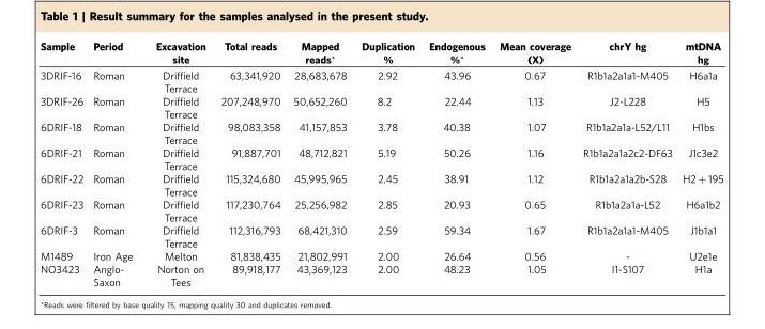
<table><thead><tr><td>Sample</td><td>Period</td><td>Excavation site</td><td>Total reads</td><td>Mapped reads*</td><td>Duplication %</td><td>Endogenous %*</td><td>Mean coverage (X)</td><td>chrY hg</td><td>mtDNA hg</td></tr></thead><tbody><tr><td>3DRIF-16</td><td>Roman</td><td>Driffield Terrace</td><td>63,341,920</td><td>28,683,678</td><td>2.92</td><td>43.96</td><td>0.67</td><td>R1b1a2a1a1-M405</td><td>H6a1a</td></tr><tr><td>3DRIF-26</td><td>Roman</td><td>Driffield Terrace</td><td>207,248,970</td><td>50,652,260</td><td>8.2</td><td>22.44</td><td>1.13</td><td>J2-L228</td><td>H5</td></tr><tr><td>6DRIF-18</td><td>Roman</td><td>Driffield Terrace</td><td>98,083,358</td><td>41,157,853</td><td>3.78</td><td>40.38</td><td>1.07</td><td>R1b1a2a1a-L52/L11</td><td>H1bs</td></tr><tr><td>6DRIF-21</td><td>Roman</td><td>Driffield Terrace</td><td>91,887,701</td><td>48,712,821</td><td>5.19</td><td>50.26</td><td>1.16</td><td>R1b1a2a1a2c2-DF63</td><td>J1c3e2</td></tr><tr><td>6DRIF-22</td><td>Roman</td><td>Driffield Terrace</td><td>115,324,680</td><td>45,995,965</td><td>2.45</td><td>38.91</td><td>1.12</td><td>R1b1a2a1a2b-S28</td><td>H2 + 195</td></tr><tr><td>6DRIF-23</td><td>Roman</td><td>Driffield Terrace</td><td>117,230,764</td><td>25,256,982</td><td>2.85</td><td>20.93</td><td>0.65</td><td>R1b1a2a1a-L52</td><td>H6a1b2</td></tr><tr><td>6DRIF-3</td><td>Roman</td><td>Driffield Terrace</td><td>112,316,793</td><td>68,421,310</td><td>2.59</td><td>59.34</td><td>1.67</td><td>R1b1a2a1a1-M405</td><td>J1b1a1</td></tr><tr><td>M1489</td><td>Iron Age</td><td>Melton</td><td>81,838,435</td><td>21,802,991</td><td>2.00</td><td>26.64</td><td>0.56</td><td>-</td><td>U2e1e</td></tr><tr><td>NO3423</td><td>Anglo- Saxon</td><td>Norton on Tees</td><td>89,918,177</td><td>43,369,123</td><td>2.00</td><td>48.23</td><td>1.05</td><td>I1-S107</td><td>H1a</td></tr></tbody></table>